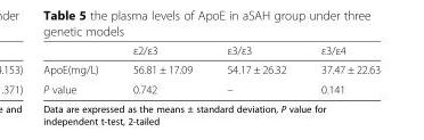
<table><thead><tr><td></td><td>ε2/ε3</td><td>ε3/ε3</td><td>ε3/ε4</td></tr></thead><tbody><tr><td>ApoE(mg/L)</td><td>56.81 ± 17.09</td><td>54.17 ± 26.32</td><td>37.47 ± 22.63</td></tr><tr><td>P value</td><td>0.742</td><td>–</td><td>0.141</td></tr></tbody></table>